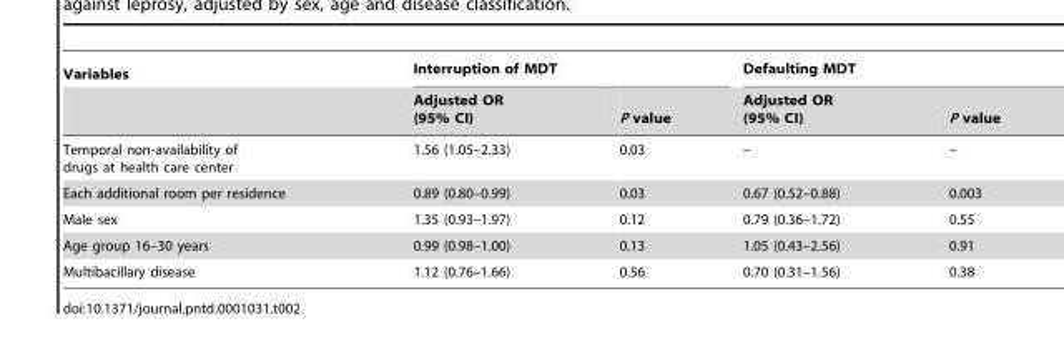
<table><thead><tr><td rowspan="2">Variables</td><td colspan="2">Interruption of MDT</td><td colspan="2">Defaulting MDT</td></tr><tr><td>Adjusted OR (95% CI)</td><td>P value</td><td>Adjusted OR (95% CI)</td><td>P value</td></tr></thead><tbody><tr><td>Temporal non-availability of drugs at health care center</td><td>1.56 (1.05–2.33)</td><td>0.03</td><td>–</td><td>–</td></tr><tr><td>Each additional room per residence</td><td>0.89 (0.80–0.99)</td><td>0.03</td><td>0.67 (0.52–0.88)</td><td>0.003</td></tr><tr><td>Male sex</td><td>1.35 (0.93–1.97)</td><td>0.12</td><td>0.79 (0.36–1.72)</td><td>0.55</td></tr><tr><td>Age group 16–30 years</td><td>0.99 (0.98–1.00)</td><td>0.13</td><td>1.05 (0.43–2.56)</td><td>0.91</td></tr><tr><td>Multibacillary disease</td><td>1.12 (0.76–1.66)</td><td>0.56</td><td>0.70 (0.31–1.56)</td><td>0.38</td></tr></tbody></table>